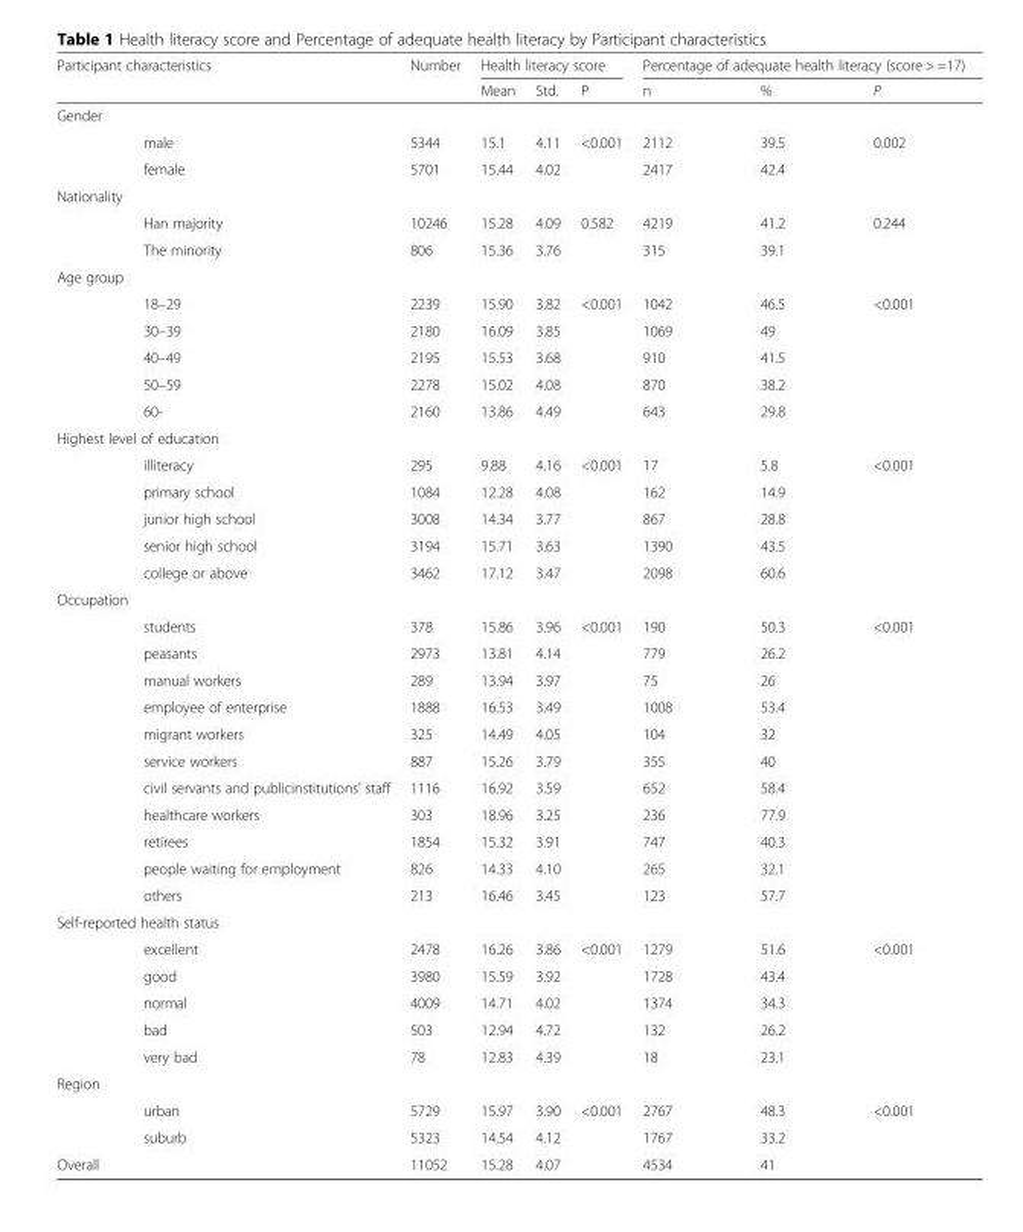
<table><thead><tr><td rowspan="2" colspan="2">Participant characteristics</td><td rowspan="3">Number</td><td colspan="3">Health literacy score</td><td colspan="3">Percentage of adequate health literacy (score &gt; =17)</td></tr><tr><td rowspan="2">Mean</td><td rowspan="2">Std.</td><td rowspan="2">P</td><td rowspan="2">n</td><td rowspan="2">%</td><td rowspan="2">P</td></tr><tr><td>Gender</td><td></td></tr></thead><tbody><tr><td></td><td>male</td><td>5344</td><td>15.1</td><td>4.11</td><td>&lt;0.001</td><td>2112</td><td>39.5</td><td>0.002</td></tr><tr><td></td><td>female</td><td>5701</td><td>15.44</td><td>4.02</td><td></td><td>2417</td><td>42.4</td><td></td></tr><tr><td colspan="9">Nationality</td></tr><tr><td></td><td>Han majority</td><td>10246</td><td>15.28</td><td>4.09</td><td>0.582</td><td>4219</td><td>41.2</td><td>0.244</td></tr><tr><td></td><td>The minority</td><td>806</td><td>15.36</td><td>3.76</td><td></td><td>315</td><td>39.1</td><td></td></tr><tr><td colspan="9">Age group</td></tr><tr><td></td><td>18–29</td><td>2239</td><td>15.90</td><td>3.82</td><td>&lt;0.001</td><td>1042</td><td>46.5</td><td>&lt;0.001</td></tr><tr><td></td><td>30–39</td><td>2180</td><td>16.09</td><td>3.85</td><td></td><td>1069</td><td>49</td><td></td></tr><tr><td></td><td>40–49</td><td>2195</td><td>15.53</td><td>3.68</td><td></td><td>910</td><td>41.5</td><td></td></tr><tr><td></td><td>50–59</td><td>2278</td><td>15.02</td><td>4.08</td><td></td><td>870</td><td>38.2</td><td></td></tr><tr><td></td><td>60-</td><td>2160</td><td>13.86</td><td>4.49</td><td></td><td>643</td><td>29.8</td><td></td></tr><tr><td colspan="9">Highest level of education</td></tr><tr><td></td><td>illiteracy</td><td>295</td><td>9.88</td><td>4.16</td><td>&lt;0.001</td><td>17</td><td>5.8</td><td>&lt;0.001</td></tr><tr><td></td><td>primary school</td><td>1084</td><td>12.28</td><td>4.08</td><td></td><td>162</td><td>14.9</td><td></td></tr><tr><td></td><td>junior high school</td><td>3008</td><td>14.34</td><td>3.77</td><td></td><td>867</td><td>28.8</td><td></td></tr><tr><td></td><td>senior high school</td><td>3194</td><td>15.71</td><td>3.63</td><td></td><td>1390</td><td>43.5</td><td></td></tr><tr><td></td><td>college or above</td><td>3462</td><td>17.12</td><td>3.47</td><td></td><td>2098</td><td>60.6</td><td></td></tr><tr><td colspan="9">Occupation</td></tr><tr><td></td><td>students</td><td>378</td><td>15.86</td><td>3.96</td><td>&lt;0.001</td><td>190</td><td>50.3</td><td>&lt;0.001</td></tr><tr><td></td><td>peasants</td><td>2973</td><td>13.81</td><td>4.14</td><td></td><td>779</td><td>26.2</td><td></td></tr><tr><td></td><td>manual workers</td><td>289</td><td>13.94</td><td>3.97</td><td></td><td>75</td><td>26</td><td></td></tr><tr><td></td><td>employee of enterprise</td><td>1888</td><td>16.53</td><td>3.49</td><td></td><td>1008</td><td>53.4</td><td></td></tr><tr><td></td><td>migrant workers</td><td>325</td><td>14.49</td><td>4.05</td><td></td><td>104</td><td>32</td><td></td></tr><tr><td></td><td>service workers</td><td>887</td><td>15.26</td><td>3.79</td><td></td><td>355</td><td>40</td><td></td></tr><tr><td></td><td>civil servants and publicinstitutions’ staff</td><td>1116</td><td>16.92</td><td>3.59</td><td></td><td>652</td><td>58.4</td><td></td></tr><tr><td></td><td>healthcare workers</td><td>303</td><td>18.96</td><td>3.25</td><td></td><td>236</td><td>77.9</td><td></td></tr><tr><td></td><td>retirees</td><td>1854</td><td>15.32</td><td>3.91</td><td></td><td>747</td><td>40.3</td><td></td></tr><tr><td></td><td>people waiting for employment</td><td>826</td><td>14.33</td><td>4.10</td><td></td><td>265</td><td>32.1</td><td></td></tr><tr><td></td><td>others</td><td>213</td><td>16.46</td><td>3.45</td><td></td><td>123</td><td>57.7</td><td></td></tr><tr><td colspan="9">Self-reported health status</td></tr><tr><td></td><td>excellent</td><td>2478</td><td>16.26</td><td>3.86</td><td>&lt;0.001</td><td>1279</td><td>51.6</td><td>&lt;0.001</td></tr><tr><td></td><td>good</td><td>3980</td><td>15.59</td><td>3.92</td><td></td><td>1728</td><td>43.4</td><td></td></tr><tr><td></td><td>normal</td><td>4009</td><td>14.71</td><td>4.02</td><td></td><td>1374</td><td>34.3</td><td></td></tr><tr><td></td><td>bad</td><td>503</td><td>12.94</td><td>4.72</td><td></td><td>132</td><td>26.2</td><td></td></tr><tr><td></td><td>very bad</td><td>78</td><td>12.83</td><td>4.39</td><td></td><td>18</td><td>23.1</td><td></td></tr><tr><td colspan="9">Region</td></tr><tr><td></td><td>urban</td><td>5729</td><td>15.97</td><td>3.90</td><td>&lt;0.001</td><td>2767</td><td>48.3</td><td>&lt;0.001</td></tr><tr><td></td><td>suburb</td><td>5323</td><td>14.54</td><td>4.12</td><td></td><td>1767</td><td>33.2</td><td></td></tr><tr><td>Overall</td><td></td><td>11052</td><td>15.28</td><td>4.07</td><td></td><td>4534</td><td>41</td><td></td></tr></tbody></table>